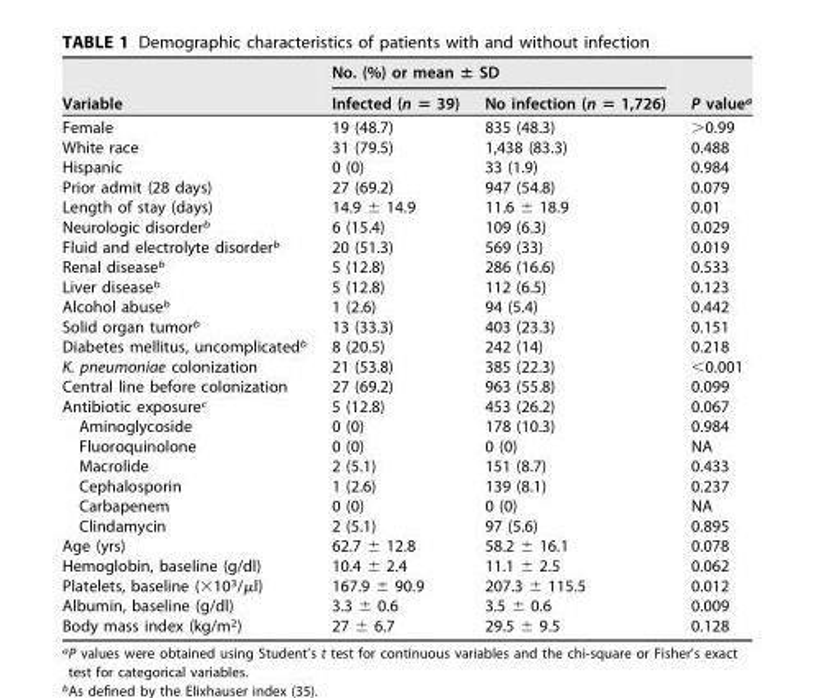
<table><thead><tr><td rowspan="2">Variable</td><td colspan="2">No. (%) or mean ± SD</td><td rowspan="2">P value<sup>a</sup></td></tr><tr><td>Infected (n = 39)</td><td>No infection (n = 1,726)</td></tr></thead><tbody><tr><td>Female</td><td>19 (48.7)</td><td>835 (48.3)</td><td>&gt;0.99</td></tr><tr><td>White race</td><td>31 (79.5)</td><td>1,438 (83.3)</td><td>0.488</td></tr><tr><td>Hispanic</td><td>0 (0)</td><td>33 (1.9)</td><td>0.984</td></tr><tr><td>Prior admit (28 days)</td><td>27 (69.2)</td><td>947 (54.8)</td><td>0.079</td></tr><tr><td>Length of stay (days)</td><td>14.9 ± 14.9</td><td>11.6 ± 18.9</td><td>0.01</td></tr><tr><td>Neurologic disorder<sup>b</sup></td><td>6 (15.4)</td><td>109 (6.3)</td><td>0.029</td></tr><tr><td>Fluid and electrolyte disorder<sup>b</sup></td><td>20 (51.3)</td><td>569 (33)</td><td>0.019</td></tr><tr><td>Renal disease<sup>b</sup></td><td>5 (12.8)</td><td>286 (16.6)</td><td>0.533</td></tr><tr><td>Liver disease<sup>b</sup></td><td>5 (12.8)</td><td>112 (6.5)</td><td>0.123</td></tr><tr><td>Alcohol abuse<sup>b</sup></td><td>1 (2.6)</td><td>94 (5.4)</td><td>0.442</td></tr><tr><td>Solid organ tumor<sup>b</sup></td><td>13 (33.3)</td><td>403 (23.3)</td><td>0.151</td></tr><tr><td>Diabetes mellitus, uncomplicated<sup>b</sup></td><td>8 (20.5)</td><td>242 (14)</td><td>0.218</td></tr><tr><td>K. pneumoniae colonization</td><td>21 (53.8)</td><td>385 (22.3)</td><td>&lt;0.001</td></tr><tr><td>Central line before colonization</td><td>27 (69.2)</td><td>963 (55.8)</td><td>0.099</td></tr><tr><td>Antibiotic exposure<sup>c</sup></td><td>5 (12.8)</td><td>453 (26.2)</td><td>0.067</td></tr><tr><td>Aminoglycoside</td><td>0 (0)</td><td>178 (10.3)</td><td>0.984</td></tr><tr><td>Fluoroquinolone</td><td>0 (0)</td><td>0 (0)</td><td>NA</td></tr><tr><td>Macrolide</td><td>2 (5.1)</td><td>151 (8.7)</td><td>0.433</td></tr><tr><td>Cephalosporin</td><td>1 (2.6)</td><td>139 (8.1)</td><td>0.237</td></tr><tr><td>Carbapenem</td><td>0 (0)</td><td>0 (0)</td><td>NA</td></tr><tr><td>Clindamycin</td><td>2 (5.1)</td><td>97 (5.6)</td><td>0.895</td></tr><tr><td>Age (yrs)</td><td>62.7 ± 12.8</td><td>58.2 ± 16.1</td><td>0.078</td></tr><tr><td>Hemoglobin, baseline (g/dl)</td><td>10.4 ± 2.4</td><td>11.1 ± 2.5</td><td>0.062</td></tr><tr><td>Platelets, baseline (×10<sup>3</sup>/µl)</td><td>167.9 ± 90.9</td><td>207.3 ± 115.5</td><td>0.012</td></tr><tr><td>Albumin, baseline (g/dl)</td><td>3.3 ± 0.6</td><td>3.5 ± 0.6</td><td>0.009</td></tr><tr><td>Body mass index (kg/m<sup>2</sup>)</td><td>27 ± 6.7</td><td>29.5 ± 9.5</td><td>0.128</td></tr></tbody></table>